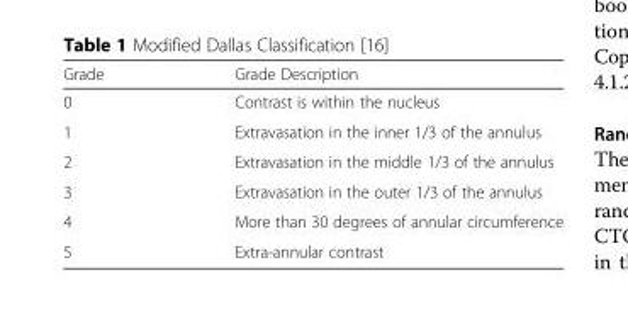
<table><thead><tr><td>Grade</td><td>Grade Description</td></tr></thead><tbody><tr><td>0</td><td>Contrast is within the nucleus</td></tr><tr><td>1</td><td>Extravasation in the inner 1/3 of the annulus</td></tr><tr><td>2</td><td>Extravasation in the middle 1/3 of the annulus</td></tr><tr><td>3</td><td>Extravasation in the outer 1/3 of the annulus</td></tr><tr><td>4</td><td>More than 30 degrees of annular circumference</td></tr><tr><td>5</td><td>Extra-annular contrast</td></tr></tbody></table>